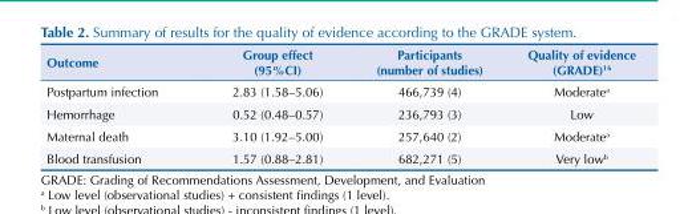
<table><thead><tr><td>Outcome</td><td>Group effect (95%CI)</td><td>Participants (number of studies)</td><td>Quality of evidence (GRADE)<sup>16</sup></td></tr></thead><tbody><tr><td>Postpartum infection</td><td>2.83 (1.58–5.06)</td><td>466,739 (4)</td><td>Moderate<sup>a</sup></td></tr><tr><td>Hemorrhage</td><td>0.52 (0.48–0.57)</td><td>236,793 (3)</td><td>Low</td></tr><tr><td>Maternal death</td><td>3.10 (1.92–5.00)</td><td>257,640 (2)</td><td>Moderate<sup>a</sup></td></tr><tr><td>Blood transfusion</td><td>1.57 (0.88–2.81)</td><td>682,271 (5)</td><td>Very low<sup>b</sup></td></tr></tbody></table>